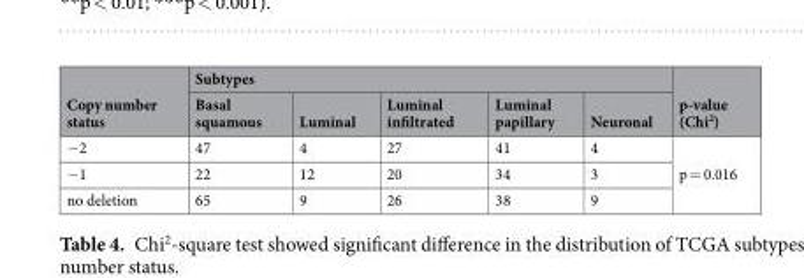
<table><thead><tr><td rowspan="2">Copy number status</td><td colspan="5">Subtypes</td><td rowspan="2">p-value (Chi<sup>2</sup>)</td></tr><tr><td>Basal squamous</td><td>Luminal</td><td>Luminal infiltrated</td><td>Luminal papillary</td><td>Neuronal</td></tr></thead><tbody><tr><td>−2</td><td>47</td><td>4</td><td>27</td><td>41</td><td>4</td><td rowspan="3">p = 0.016</td></tr><tr><td>−1</td><td>22</td><td>12</td><td>20</td><td>34</td><td>3</td></tr><tr><td>no deletion</td><td>65</td><td>9</td><td>26</td><td>38</td><td>9</td></tr></tbody></table>